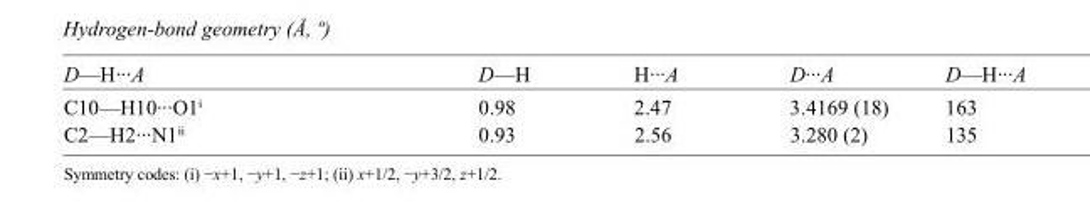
<table><tbody><tr><td>D—H···A</td><td>D—H</td><td>H···A</td><td>D···A</td><td>D—H···A</td></tr><tr><td>C10—H10···O1<sup>i</sup></td><td>0.98</td><td>2.47</td><td>3.4169 (18)</td><td>163</td></tr><tr><td>C2—H2···N1<sup>ii</sup></td><td>0.93</td><td>2.56</td><td>3.280 (2)</td><td>135</td></tr></tbody></table>